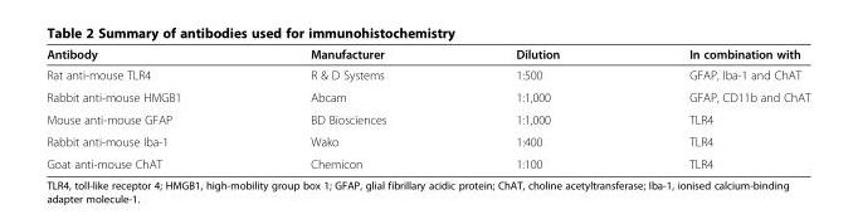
<table><thead><tr><td>Antibody</td><td>Manufacturer</td><td>Dilution</td><td>In combination with</td></tr></thead><tbody><tr><td>Rat anti-mouse TLR4</td><td>R &amp; D Systems</td><td>1:500</td><td>GFAP, Iba-1 and ChAT</td></tr><tr><td>Rabbit anti-mouse HMGB1</td><td>Abcam</td><td>1:1,000</td><td>GFAP, CD11b and ChAT</td></tr><tr><td>Mouse anti-mouse GFAP</td><td>BD Biosciences</td><td>1:1,000</td><td>TLR4</td></tr><tr><td>Rabbit anti-mouse Iba-1</td><td>Wako</td><td>1:400</td><td>TLR4</td></tr><tr><td>Goat anti-mouse ChAT</td><td>Chemicon</td><td>1:100</td><td>TLR4</td></tr></tbody></table>